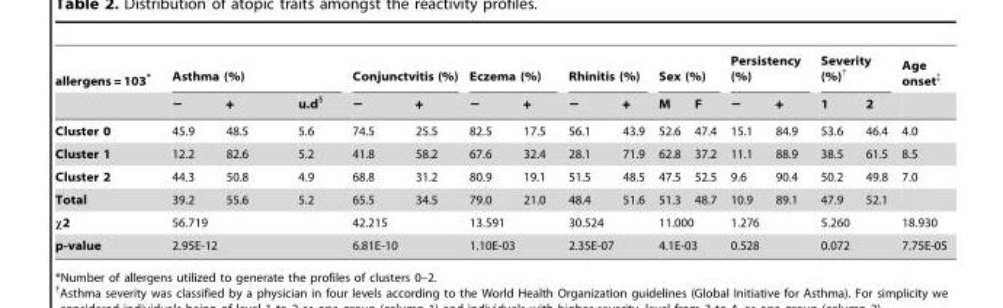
<table><thead><tr><td rowspan="2">allergens = 103*</td><td colspan="3">Asthma (%)</td><td colspan="2">Conjunctvitis (%)</td><td colspan="2">Eczema (%)</td><td colspan="2">Rhinitis (%)</td><td colspan="2">Sex (%)</td><td colspan="2">Persistency (%)</td><td colspan="2">Severity (%)†</td><td rowspan="2">Age onset‡</td></tr><tr><td>−</td><td>+</td><td>u.d§</td><td>−</td><td>+</td><td>−</td><td>+</td><td>−</td><td>+</td><td>M</td><td>F</td><td>−</td><td>+</td><td>1</td><td>2</td></tr></thead><tbody><tr><td>Cluster 0</td><td>45.9</td><td>48.5</td><td>5.6</td><td>74.5</td><td>25.5</td><td>82.5</td><td>17.5</td><td>56.1</td><td>43.9</td><td>52.6</td><td>47.4</td><td>15.1</td><td>84.9</td><td>53.6</td><td>46.4</td><td>4.0</td></tr><tr><td>Cluster 1</td><td>12.2</td><td>82.6</td><td>5.2</td><td>41.8</td><td>58.2</td><td>67.6</td><td>32.4</td><td>28.1</td><td>71.9</td><td>62.8</td><td>37.2</td><td>11.1</td><td>88.9</td><td>38.5</td><td>61.5</td><td>8.5</td></tr><tr><td>Cluster 2</td><td>44.3</td><td>50.8</td><td>4.9</td><td>68.8</td><td>31.2</td><td>80.9</td><td>19.1</td><td>51.5</td><td>48.5</td><td>47.5</td><td>52.5</td><td>9.6</td><td>90.4</td><td>50.2</td><td>49.8</td><td>7.0</td></tr><tr><td>Total</td><td>39.2</td><td>55.6</td><td>5.2</td><td>65.5</td><td>34.5</td><td>79.0</td><td>21.0</td><td>48.4</td><td>51.6</td><td>51.3</td><td>48.7</td><td>10.9</td><td>89.1</td><td>47.9</td><td>52.1</td><td></td></tr><tr><td>χ2</td><td colspan="3">56.719</td><td colspan="2">42.215</td><td colspan="2">13.591</td><td colspan="2">30.524</td><td colspan="2">11.000</td><td colspan="2">1.276</td><td colspan="2">5.260</td><td>18.930</td></tr><tr><td>p-value</td><td colspan="3">2.95E-12</td><td colspan="2">6.81E-10</td><td colspan="2">1.10E-03</td><td colspan="2">2.35E-07</td><td colspan="2">4.1E-03</td><td colspan="2">0.528</td><td colspan="2">0.072</td><td>7.75E-05</td></tr></tbody></table>